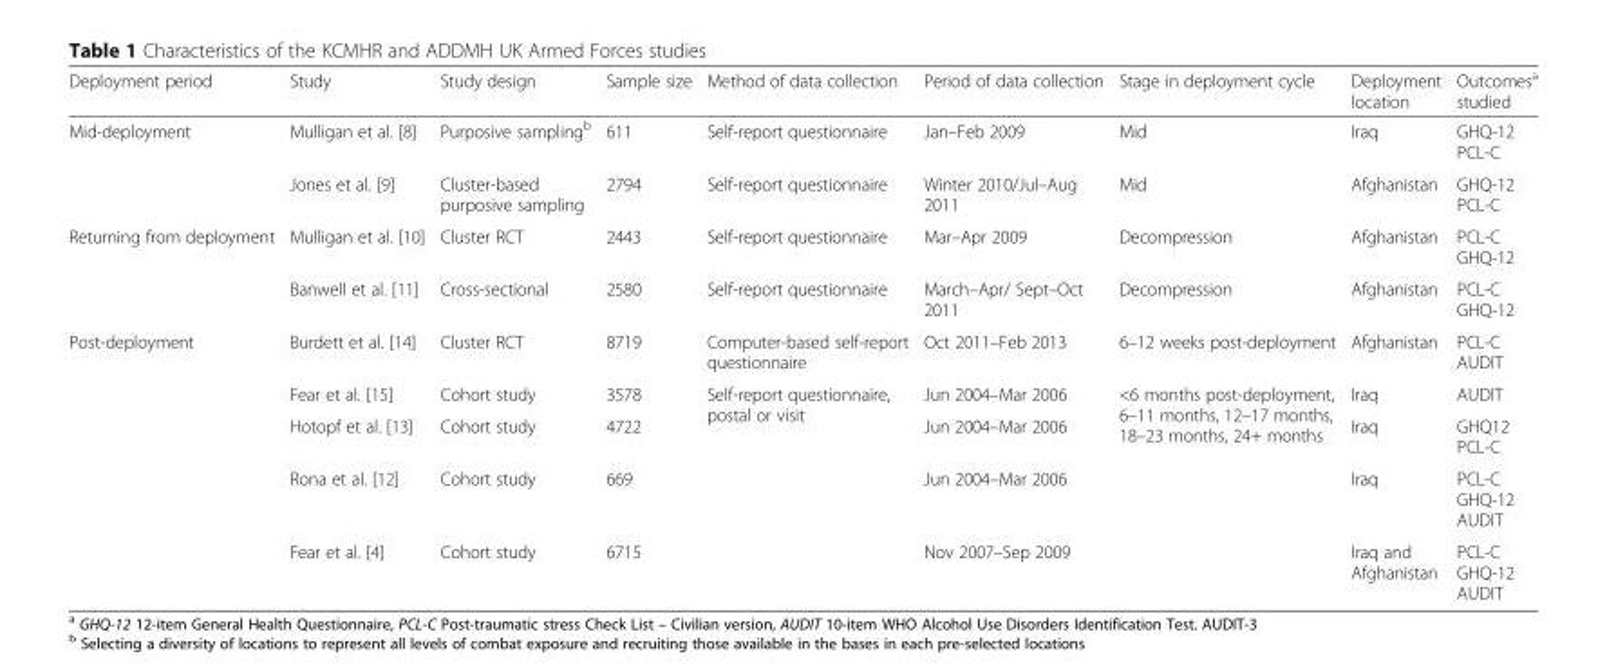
<table><thead><tr><td>Deployment period</td><td>Study</td><td>Study design</td><td>Sample size</td><td>Method of data collection</td><td>Period of data collection</td><td>Stage in deployment cycle</td><td>Deployment location</td><td>Outcomes<sup>a</sup> studied</td></tr></thead><tbody><tr><td rowspan="2">Mid-deployment</td><td>Mulligan et al. [8]</td><td>Purposive sampling<sup>b</sup></td><td>611</td><td>Self-report questionnaire</td><td>Jan–Feb 2009</td><td>Mid</td><td>Iraq</td><td>GHQ-12 PCL-C</td></tr><tr><td>Jones et al. [9]</td><td>Cluster-based purposive sampling</td><td>2794</td><td>Self-report questionnaire</td><td>Winter 2010/Jul–Aug 2011</td><td>Mid</td><td>Afghanistan</td><td>GHQ-12 PCL-C</td></tr><tr><td rowspan="2">Returning from deployment</td><td>Mulligan et al. [10]</td><td>Cluster RCT</td><td>2443</td><td>Self-report questionnaire</td><td>Mar–Apr 2009</td><td>Decompression</td><td>Afghanistan</td><td>PCL-C GHQ-12</td></tr><tr><td>Banwell et al. [11]</td><td>Cross-sectional</td><td>2580</td><td>Self-report questionnaire</td><td>March–Apr/ Sept–Oct 2011</td><td>Decompression</td><td>Afghanistan</td><td>PCL-C GHQ-12</td></tr><tr><td rowspan="5">Post-deployment</td><td>Burdett et al. [14]</td><td>Cluster RCT</td><td>8719</td><td>Computer-based self-report questionnaire</td><td>Oct 2011–Feb 2013</td><td>6–12 weeks post-deployment</td><td>Afghanistan</td><td>PCL-C AUDIT</td></tr><tr><td>Fear et al. [15]</td><td>Cohort study</td><td>3578</td><td rowspan="4">Self-report questionnaire, postal or visit</td><td>Jun 2004–Mar 2006</td><td rowspan="4">&lt;6 months post-deployment, 6–11 months, 12–17 months, 18–23 months, 24+ months</td><td>Iraq</td><td>AUDIT</td></tr><tr><td>Hotopf et al. [13]</td><td>Cohort study</td><td>4722</td><td>Jun 2004–Mar 2006</td><td>Iraq</td><td>GHQ12 PCL-C</td></tr><tr><td>Rona et al. [12]</td><td>Cohort study</td><td>669</td><td>Jun 2004–Mar 2006</td><td>Iraq</td><td>PCL-C GHQ-12 AUDIT</td></tr><tr><td>Fear et al. [4]</td><td>Cohort study</td><td>6715</td><td>Nov 2007–Sep 2009</td><td>Iraq and Afghanistan</td><td>PCL-C GHQ-12 AUDIT</td></tr></tbody></table>